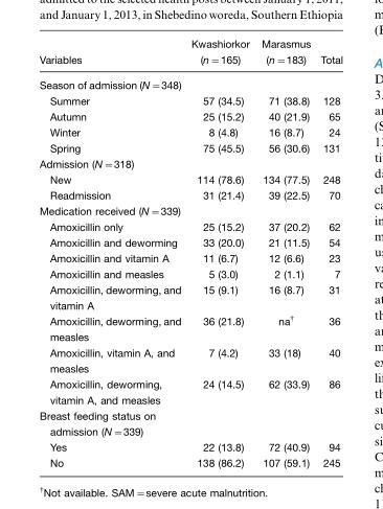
<table><thead><tr><td>Variables</td><td>Kwashiorkor (n=165)</td><td>Marasmus (n=183)</td><td>Total</td></tr></thead><tbody><tr><td colspan="4">Season of admission (N=348)</td></tr><tr><td>Summer</td><td>57 (34.5)</td><td>71 (38.8)</td><td>128</td></tr><tr><td>Autumn</td><td>25 (15.2)</td><td>40 (21.9)</td><td>65</td></tr><tr><td>Winter</td><td>8 (4.8)</td><td>16 (8.7)</td><td>24</td></tr><tr><td>Spring</td><td>75 (45.5)</td><td>56 (30.6)</td><td>131</td></tr><tr><td colspan="4">Admission (N=318)</td></tr><tr><td>New</td><td>114 (78.6)</td><td>134 (77.5)</td><td>248</td></tr><tr><td>Readmission</td><td>31 (21.4)</td><td>39 (22.5)</td><td>70</td></tr><tr><td colspan="4">Medication received (N=339)</td></tr><tr><td>Amoxicillin only</td><td>25 (15.2)</td><td>37 (20.2)</td><td>62</td></tr><tr><td>Amoxicillin and deworming</td><td>33 (20.0)</td><td>21 (11.5)</td><td>54</td></tr><tr><td>Amoxicillin and vitamin A</td><td>11 (6.7)</td><td>12 (6.6)</td><td>23</td></tr><tr><td>Amoxicillin and measles</td><td>5 (3.0)</td><td>2 (1.1)</td><td>7</td></tr><tr><td>Amoxicillin, deworming, and vitamin A</td><td>15 (9.1)</td><td>16 (8.7)</td><td>31</td></tr><tr><td>Amoxicillin, deworming, and measles</td><td>36 (21.8)</td><td>na†</td><td>36</td></tr><tr><td>Amoxicillin, vitamin A, and measles</td><td>7 (4.2)</td><td>33 (18)</td><td>40</td></tr><tr><td>Amoxicillin, deworming, vitamin A, and measles</td><td>24 (14.5)</td><td>62 (33.9)</td><td>86</td></tr><tr><td colspan="4">Breast feeding status on admission (N=339)</td></tr><tr><td>Yes</td><td>22 (13.8)</td><td>72 (40.9)</td><td>94</td></tr><tr><td>No</td><td>138 (86.2)</td><td>107 (59.1)</td><td>245</td></tr></tbody></table>